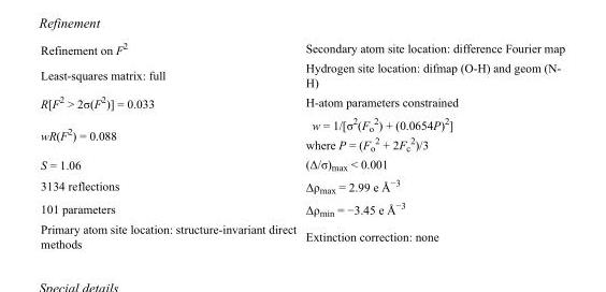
<table><tbody><tr><td>Refinement on F<sup>2</sup></td><td>Secondary atom site location: difference Fourier map</td></tr><tr><td>Least-squares matrix: full</td><td>Hydrogen site location: difmap (O-H) and geom (N- H)</td></tr><tr><td>R[F<sup>2</sup> &gt; 2σ(F<sup>2</sup>)] = 0.033</td><td>H-atom parameters constrained</td></tr><tr><td>wR(F<sup>2</sup>) = 0.088</td><td>w = 1/[σ<sup>2</sup>(F<sub>o</sub> <sup>2</sup>) + (0.0654P)<sup>2</sup>] where P = (F<sub>o</sub> <sup>2</sup> + 2F<sub>c</sub> <sup>2</sup>)/3</td></tr><tr><td>S = 1.06</td><td>(Δ/σ)<sub>max</sub> &lt; 0.001</td></tr><tr><td>3134 reflections</td><td>Δρ<sub>max</sub> = 2.99 e Å<sup>−3</sup></td></tr><tr><td>101 parameters</td><td>Δρ<sub>min</sub> = −3.45 e Å<sup>−3</sup></td></tr><tr><td>Primary atom site location: structure-invariant direct methods</td><td>Extinction correction: none</td></tr></tbody></table>